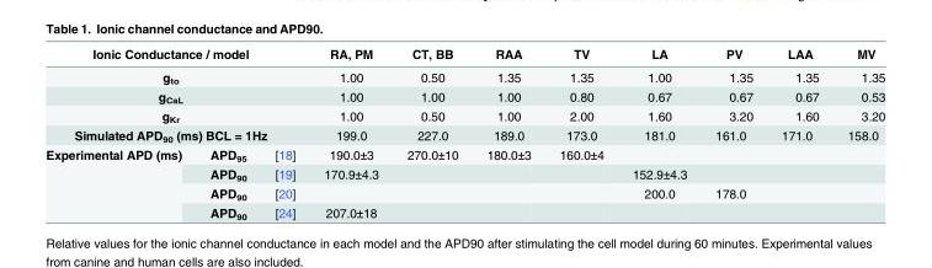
<table><thead><tr><td colspan="3">Ionic Conductance / model</td><td>RA, PM</td><td>CT, BB</td><td>RAA</td><td>TV</td><td>LA</td><td>PV</td><td>LAA</td><td>MV</td></tr></thead><tbody><tr><td colspan="3">g<sub>to</sub></td><td>1.00</td><td>0.50</td><td>1.35</td><td>1.35</td><td>1.00</td><td>1.35</td><td>1.35</td><td>1.35</td></tr><tr><td colspan="3">g<sub>CaL</sub></td><td>1.00</td><td>1.00</td><td>1.00</td><td>0.80</td><td>0.67</td><td>0.67</td><td>0.67</td><td>0.53</td></tr><tr><td colspan="3">g<sub>Kr</sub></td><td>1.00</td><td>0.50</td><td>1.00</td><td>2.00</td><td>1.60</td><td>3.20</td><td>1.60</td><td>3.20</td></tr><tr><td colspan="3">Simulated APD<sub>90</sub> (ms) BCL = 1Hz</td><td>199.0</td><td>227.0</td><td>189.0</td><td>173.0</td><td>181.0</td><td>161.0</td><td>171.0</td><td>158.0</td></tr><tr><td rowspan="4">Experimental APD (ms)</td><td>APD<sub>95</sub></td><td>[18]</td><td>190.0±3</td><td>270.0±10</td><td>180.0±3</td><td>160.0±4</td><td></td><td></td><td></td><td></td></tr><tr><td>APD<sub>90</sub></td><td>[19]</td><td>170.9±4.3</td><td></td><td></td><td></td><td>152.9±4.3</td><td></td><td></td><td></td></tr><tr><td>APD<sub>90</sub></td><td>[20]</td><td></td><td></td><td></td><td></td><td>200.0</td><td>178.0</td><td></td><td></td></tr><tr><td>APD<sub>90</sub></td><td>[24]</td><td>207.0±18</td><td></td><td></td><td></td><td></td><td></td><td></td><td></td></tr></tbody></table>